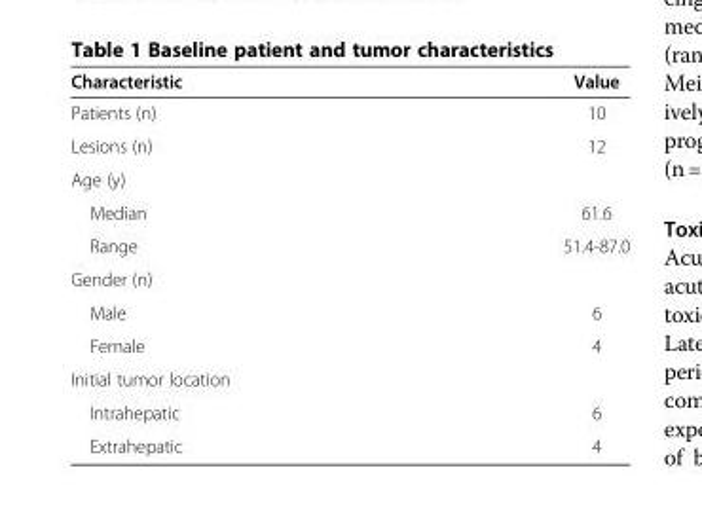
<table><thead><tr><td>Characteristic</td><td>Value</td></tr></thead><tbody><tr><td>Patients (n)</td><td>10</td></tr><tr><td>Lesions (n)</td><td>12</td></tr><tr><td colspan="2">Age (y)</td></tr><tr><td>Median</td><td>61.6</td></tr><tr><td>Range</td><td>51.4-87.0</td></tr><tr><td colspan="2">Gender (n)</td></tr><tr><td>Male</td><td>6</td></tr><tr><td>Female</td><td>4</td></tr><tr><td colspan="2">Initial tumor location</td></tr><tr><td>Intrahepatic</td><td>6</td></tr><tr><td>Extrahepatic</td><td>4</td></tr></tbody></table>